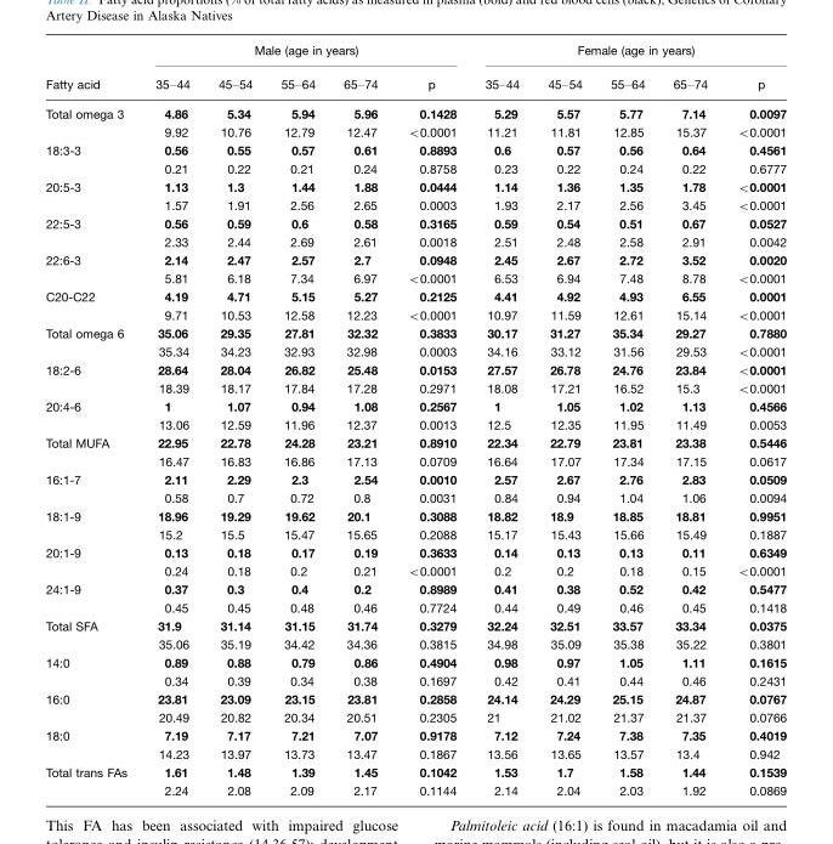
<table><thead><tr><td rowspan="2">Fatty acid</td><td colspan="5">Male (age in years)</td><td colspan="5">Female (age in years)</td></tr><tr><td>35–44</td><td>45–54</td><td>55–64</td><td>65–74</td><td>p</td><td>35–44</td><td>45–54</td><td>55–64</td><td>65–74</td><td>p</td></tr></thead><tbody><tr><td>Total omega 3</td><td>4.86 9.92</td><td>5.34 10.76</td><td>5.94 12.79</td><td>5.96 12.47</td><td>0.1428 &lt;0.0001</td><td>5.29 11.21</td><td>5.57 11.81</td><td>5.77 12.85</td><td>7.14 15.37</td><td>0.0097 &lt;0.0001</td></tr><tr><td>18:3-3</td><td>0.56 0.21</td><td>0.55 0.22</td><td>0.57 0.21</td><td>0.61 0.24</td><td>0.8893 0.8758</td><td>0.6 0.23</td><td>0.57 0.22</td><td>0.56 0.24</td><td>0.64 0.22</td><td>0.4561 0.6777</td></tr><tr><td>20:5-3</td><td>1.13 1.57</td><td>1.3 1.91</td><td>1.44 2.56</td><td>1.88 2.65</td><td>0.0444 0.0003</td><td>1.14 1.93</td><td>1.36 2.17</td><td>1.35 2.56</td><td>1.78 3.45</td><td>&lt;0.0001 &lt;0.0001</td></tr><tr><td>22:5-3</td><td>0.56 2.33</td><td>0.59 2.44</td><td>0.6 2.69</td><td>0.58 2.61</td><td>0.3165 0.0018</td><td>0.59 2.51</td><td>0.54 2.48</td><td>0.51 2.58</td><td>0.67 2.91</td><td>0.0527 0.0042</td></tr><tr><td>22:6-3</td><td>2.14 5.81</td><td>2.47 6.18</td><td>2.57 7.34</td><td>2.7 6.97</td><td>0.0948 &lt;0.0001</td><td>2.45 6.53</td><td>2.67 6.94</td><td>2.72 7.48</td><td>3.52 8.78</td><td>0.0020 &lt;0.0001</td></tr><tr><td>C20-C22</td><td>4.19 9.71</td><td>4.71 10.53</td><td>5.15 12.58</td><td>5.27 12.23</td><td>0.2125 &lt;0.0001</td><td>4.41 10.97</td><td>4.92 11.59</td><td>4.93 12.61</td><td>6.55 15.14</td><td>0.0001 &lt;0.0001</td></tr><tr><td>Total omega 6</td><td>35.06 35.34</td><td>29.35 34.23</td><td>27.81 32.93</td><td>32.32 32.98</td><td>0.3833 0.0003</td><td>30.17 34.16</td><td>31.27 33.12</td><td>35.34 31.56</td><td>29.27 29.53</td><td>0.7880 &lt;0.0001</td></tr><tr><td>18:2-6</td><td>28.64 18.39</td><td>28.04 18.17</td><td>26.82 17.84</td><td>25.48 17.28</td><td>0.0153 0.2971</td><td>27.57 18.08</td><td>26.78 17.21</td><td>24.76 16.52</td><td>23.84 15.3</td><td>&lt;0.0001 &lt;0.0001</td></tr><tr><td>20:4-6</td><td>1 13.06</td><td>1.07 12.59</td><td>0.94 11.96</td><td>1.08 12.37</td><td>0.2567 0.0013</td><td>1 12.5</td><td>1.05 12.35</td><td>1.02 11.95</td><td>1.13 11.49</td><td>0.4566 0.0053</td></tr><tr><td>Total MUFA</td><td>22.95 16.47</td><td>22.78 16.83</td><td>24.28 16.86</td><td>23.21 17.13</td><td>0.8910 0.0709</td><td>22.34 16.64</td><td>22.79 17.07</td><td>23.81 17.34</td><td>23.38 17.15</td><td>0.5446 0.0617</td></tr><tr><td>16:1-7</td><td>2.11 0.58</td><td>2.29 0.7</td><td>2.3 0.72</td><td>2.54 0.8</td><td>0.0010 0.0031</td><td>2.57 0.84</td><td>2.67 0.94</td><td>2.76 1.04</td><td>2.83 1.06</td><td>0.0509 0.0094</td></tr><tr><td>18:1-9</td><td>18.96 15.2</td><td>19.29 15.5</td><td>19.62 15.47</td><td>20.1 15.65</td><td>0.3088 0.2088</td><td>18.82 15.17</td><td>18.9 15.43</td><td>18.85 15.66</td><td>18.81 15.49</td><td>0.9951 0.1887</td></tr><tr><td>20:1-9</td><td>0.13 0.24</td><td>0.18 0.18</td><td>0.17 0.2</td><td>0.19 0.21</td><td>0.3633 &lt;0.0001</td><td>0.14 0.2</td><td>0.13 0.2</td><td>0.13 0.18</td><td>0.11 0.15</td><td>0.6349 &lt;0.0001</td></tr><tr><td>24:1-9</td><td>0.37 0.45</td><td>0.3 0.45</td><td>0.4 0.48</td><td>0.2 0.46</td><td>0.8989 0.7724</td><td>0.41 0.44</td><td>0.38 0.49</td><td>0.52 0.46</td><td>0.42 0.45</td><td>0.5477 0.1418</td></tr><tr><td>Total SFA</td><td>31.9 35.06</td><td>31.14 35.19</td><td>31.15 34.42</td><td>31.74 34.36</td><td>0.3279 0.3815</td><td>32.24 34.98</td><td>32.51 35.09</td><td>33.57 35.38</td><td>33.34 35.22</td><td>0.0375 0.3801</td></tr><tr><td>14:0</td><td>0.89 0.34</td><td>0.88 0.39</td><td>0.79 0.34</td><td>0.86 0.38</td><td>0.4904 0.1697</td><td>0.98 0.42</td><td>0.97 0.41</td><td>1.05 0.44</td><td>1.11 0.46</td><td>0.1615 0.2431</td></tr><tr><td>16:0</td><td>23.81 20.49</td><td>23.09 20.82</td><td>23.15 20.34</td><td>23.81 20.51</td><td>0.2858 0.2305</td><td>24.14 21</td><td>24.29 21.02</td><td>25.15 21.37</td><td>24.87 21.37</td><td>0.0767 0.0766</td></tr><tr><td>18:0</td><td>7.19 14.23</td><td>7.17 13.97</td><td>7.21 13.73</td><td>7.07 13.47</td><td>0.9178 0.1867</td><td>7.12 13.56</td><td>7.24 13.65</td><td>7.38 13.57</td><td>7.35 13.4</td><td>0.4019 0.942</td></tr><tr><td>Total trans FAs</td><td>1.61 2.24</td><td>1.48 2.08</td><td>1.39 2.09</td><td>1.45 2.17</td><td>0.1042 0.1144</td><td>1.53 2.14</td><td>1.7 2.04</td><td>1.58 2.03</td><td>1.44 1.92</td><td>0.1539 0.0869</td></tr></tbody></table>